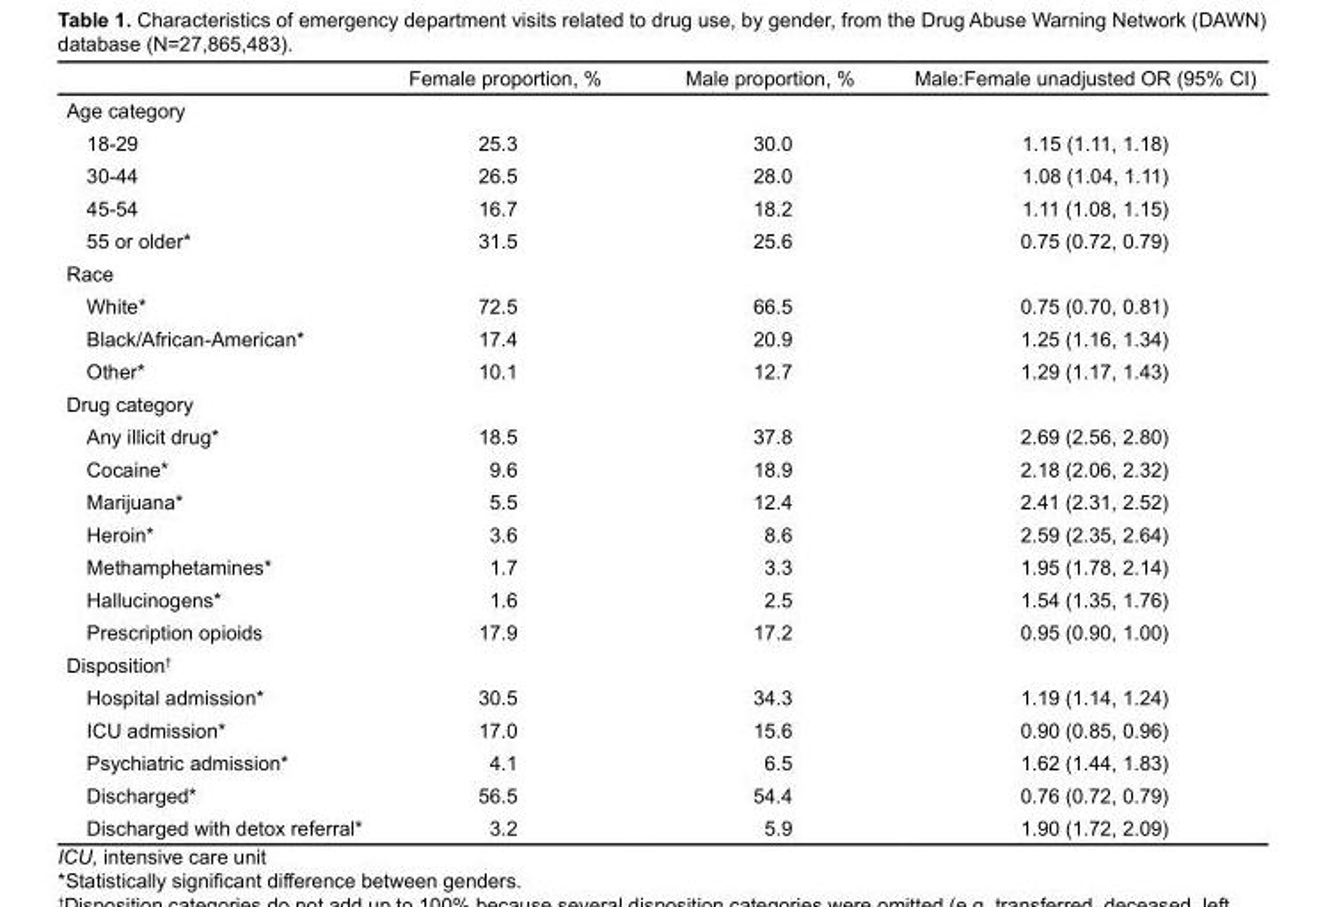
<table><thead><tr><td></td><td>Female proportion, %</td><td>Male proportion, %</td><td>Male:Female unadjusted OR (95% CI)</td></tr></thead><tbody><tr><td colspan="4">Age category</td></tr><tr><td>18-29</td><td>25.3</td><td>30.0</td><td>1.15 (1.11, 1.18)</td></tr><tr><td>30-44</td><td>26.5</td><td>28.0</td><td>1.08 (1.04, 1.11)</td></tr><tr><td>45-54</td><td>16.7</td><td>18.2</td><td>1.11 (1.08, 1.15)</td></tr><tr><td>55 or older*</td><td>31.5</td><td>25.6</td><td>0.75 (0.72, 0.79)</td></tr><tr><td colspan="4">Race</td></tr><tr><td>White*</td><td>72.5</td><td>66.5</td><td>0.75 (0.70, 0.81)</td></tr><tr><td>Black/African-American*</td><td>17.4</td><td>20.9</td><td>1.25 (1.16, 1.34)</td></tr><tr><td>Other*</td><td>10.1</td><td>12.7</td><td>1.29 (1.17, 1.43)</td></tr><tr><td colspan="4">Drug category</td></tr><tr><td>Any illicit drug*</td><td>18.5</td><td>37.8</td><td>2.69 (2.56, 2.80)</td></tr><tr><td>Cocaine*</td><td>9.6</td><td>18.9</td><td>2.18 (2.06, 2.32)</td></tr><tr><td>Marijuana*</td><td>5.5</td><td>12.4</td><td>2.41 (2.31, 2.52)</td></tr><tr><td>Heroin*</td><td>3.6</td><td>8.6</td><td>2.59 (2.35, 2.64)</td></tr><tr><td>Methamphetamines*</td><td>1.7</td><td>3.3</td><td>1.95 (1.78, 2.14)</td></tr><tr><td>Hallucinogens*</td><td>1.6</td><td>2.5</td><td>1.54 (1.35, 1.76)</td></tr><tr><td>Prescription opioids</td><td>17.9</td><td>17.2</td><td>0.95 (0.90, 1.00)</td></tr><tr><td colspan="4">Disposition†</td></tr><tr><td>Hospital admission*</td><td>30.5</td><td>34.3</td><td>1.19 (1.14, 1.24)</td></tr><tr><td>ICU admission*</td><td>17.0</td><td>15.6</td><td>0.90 (0.85, 0.96)</td></tr><tr><td>Psychiatric admission*</td><td>4.1</td><td>6.5</td><td>1.62 (1.44, 1.83)</td></tr><tr><td>Discharged*</td><td>56.5</td><td>54.4</td><td>0.76 (0.72, 0.79)</td></tr><tr><td>Discharged with detox referral*</td><td>3.2</td><td>5.9</td><td>1.90 (1.72, 2.09)</td></tr></tbody></table>